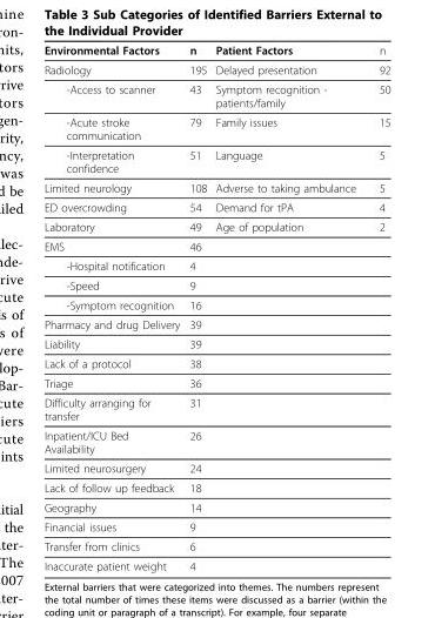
<table><thead><tr><td>Environmental Factors</td><td>n</td><td>Patient Factors</td><td>n</td></tr></thead><tbody><tr><td>Radiology</td><td>195</td><td>Delayed presentation</td><td>92</td></tr><tr><td>-Access to scanner</td><td>43</td><td>Symptom recognition - patients/family</td><td>50</td></tr><tr><td>-Acute stroke communication</td><td>79</td><td>Family issues</td><td>15</td></tr><tr><td>-Interpretation confidence</td><td>51</td><td>Language</td><td>5</td></tr><tr><td>Limited neurology</td><td>108</td><td>Adverse to taking ambulance</td><td>5</td></tr><tr><td>ED overcrowding</td><td>54</td><td>Demand for tPA</td><td>4</td></tr><tr><td>Laboratory</td><td>49</td><td>Age of population</td><td>2</td></tr><tr><td>EMS</td><td>46</td><td></td><td></td></tr><tr><td>-Hospital notification</td><td>4</td><td></td><td></td></tr><tr><td>-Speed</td><td>9</td><td></td><td></td></tr><tr><td>-Symptom recognition</td><td>16</td><td></td><td></td></tr><tr><td>Pharmacy and drug Delivery</td><td>39</td><td></td><td></td></tr><tr><td>Liability</td><td>39</td><td></td><td></td></tr><tr><td>Lack of a protocol</td><td>38</td><td></td><td></td></tr><tr><td>Triage</td><td>36</td><td></td><td></td></tr><tr><td>Difficulty arranging for transfer</td><td>31</td><td></td><td></td></tr><tr><td>Inpatient/ICU Bed Availability</td><td>26</td><td></td><td></td></tr><tr><td>Limited neurosurgery</td><td>24</td><td></td><td></td></tr><tr><td>Lack of follow up feedback</td><td>18</td><td></td><td></td></tr><tr><td>Geography</td><td>14</td><td></td><td></td></tr><tr><td>Financial issues</td><td>9</td><td></td><td></td></tr><tr><td>Transfer from clinics</td><td>6</td><td></td><td></td></tr><tr><td>Inaccurate patient weight</td><td>4</td><td></td><td></td></tr></tbody></table>